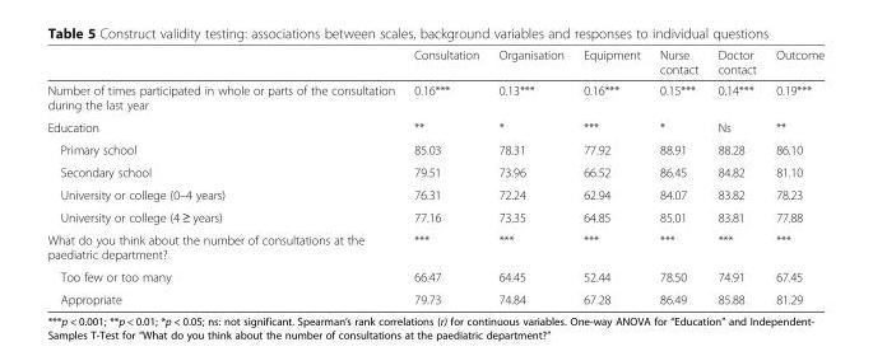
<table><thead><tr><td></td><td>Consultation</td><td>Organisation</td><td>Equipment</td><td>Nurse contact</td><td>Doctor contact</td><td>Outcome</td></tr></thead><tbody><tr><td>Number of times participated in whole or parts of the consultation during the last year</td><td>0.16***</td><td>0.13***</td><td>0.16***</td><td>0.15***</td><td>0.14***</td><td>0.19***</td></tr><tr><td>Education</td><td>**</td><td>*</td><td>***</td><td>*</td><td>Ns</td><td>**</td></tr><tr><td>Primary school</td><td>85.03</td><td>78.31</td><td>77.92</td><td>88.91</td><td>88.28</td><td>86.10</td></tr><tr><td>Secondary school</td><td>79.51</td><td>73.96</td><td>66.52</td><td>86.45</td><td>84.82</td><td>81.10</td></tr><tr><td>University or college (0–4 years)</td><td>76.31</td><td>72.24</td><td>62.94</td><td>84.07</td><td>83.82</td><td>78.23</td></tr><tr><td>University or college (4 ≥ years)</td><td>77.16</td><td>73.35</td><td>64.85</td><td>85.01</td><td>83.81</td><td>77.88</td></tr><tr><td>What do you think about the number of consultations at the paediatric department?</td><td>***</td><td>***</td><td>***</td><td>***</td><td>***</td><td>***</td></tr><tr><td>Too few or too many</td><td>66.47</td><td>64.45</td><td>52.44</td><td>78.50</td><td>74.91</td><td>67.45</td></tr><tr><td>Appropriate</td><td>79.73</td><td>74.84</td><td>67.28</td><td>86.49</td><td>85.88</td><td>81.29</td></tr></tbody></table>